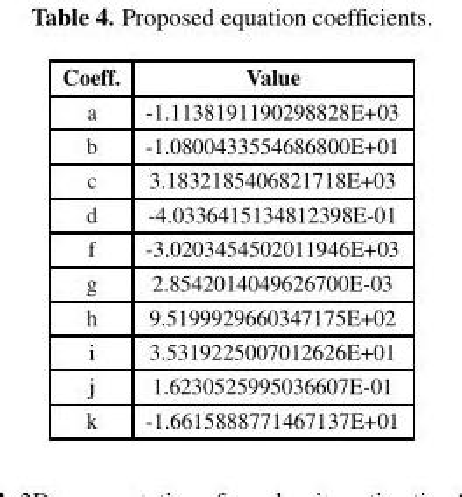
<table><thead><tr><td>Coeff.</td><td>Value</td></tr></thead><tbody><tr><td>a</td><td>-1.1138191190298828E+03</td></tr><tr><td>b</td><td>-1.0800433554686800E+01</td></tr><tr><td>c</td><td>3.1832185406821718E+03</td></tr><tr><td>d</td><td>-4.0336415134812398E-01</td></tr><tr><td>f</td><td>-3.0203454502011946E+03</td></tr><tr><td>g</td><td>2.8542014049626700E-03</td></tr><tr><td>h</td><td>9.5199929660347175E+02</td></tr><tr><td>i</td><td>3.5319225007012626E+01</td></tr><tr><td>j</td><td>1.6230525995036607E-01</td></tr><tr><td>k</td><td>-1.6615888771467137E+01</td></tr></tbody></table>